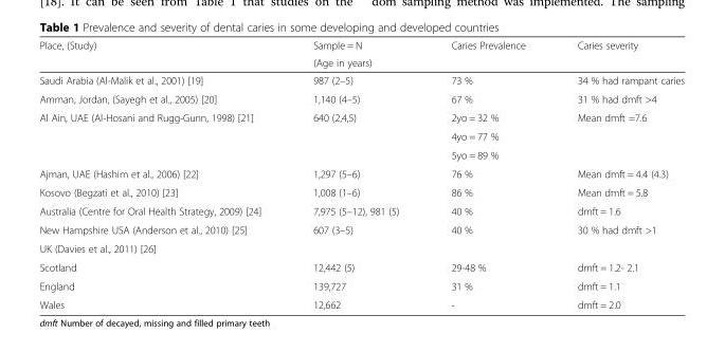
<table><thead><tr><td rowspan="2">Place, (Study)</td><td rowspan="2">Sample = N (Age in years)</td><td rowspan="2">Caries Prevalence</td><td rowspan="2">Caries severity</td></tr><tr></tr></thead><tbody><tr><td>Saudi Arabia (Al-Malik et al., 2001) [19]</td><td>987 (2–5)</td><td>73 %</td><td>34 % had rampant caries</td></tr><tr><td>Amman, Jordan, (Sayegh et al., 2005) [20]</td><td>1,140 (4–5)</td><td>67 %</td><td>31 % had dmft &gt;4</td></tr><tr><td rowspan="3">Al Ain, UAE (Al-Hosani and Rugg-Gunn, 1998) [21]</td><td>640 (2,4,5)</td><td>2yo = 32 %</td><td>Mean dmft =7.6</td></tr><tr><td></td><td>4yo = 77 %</td><td></td></tr><tr><td></td><td>5yo = 89 %</td><td></td></tr><tr><td>Ajman, UAE (Hashim et al., 2006) [22]</td><td>1,297 (5–6)</td><td>76 %</td><td>Mean dmft = 4.4 (4.3)</td></tr><tr><td>Kosovo (Begzati et al., 2010) [23]</td><td>1,008 (1–6)</td><td>86 %</td><td>Mean dmft = 5.8</td></tr><tr><td>Australia (Centre for Oral Health Strategy, 2009) [24]</td><td>7,975 (5–12), 981 (5)</td><td>40 %</td><td>dmft = 1.6</td></tr><tr><td>New Hampshire USA (Anderson et al., 2010) [25]</td><td>607 (3–5)</td><td>40 %</td><td>30 % had dmft &gt;1</td></tr><tr><td colspan="4">UK (Davies et al., 2011) [26]</td></tr><tr><td>Scotland</td><td>12,442 (5)</td><td>29-48 %</td><td>dmft = 1.2- 2.1</td></tr><tr><td>England</td><td>139,727</td><td>31 %</td><td>dmft = 1.1</td></tr><tr><td>Wales</td><td>12,662</td><td>-</td><td>dmft = 2.0</td></tr></tbody></table>